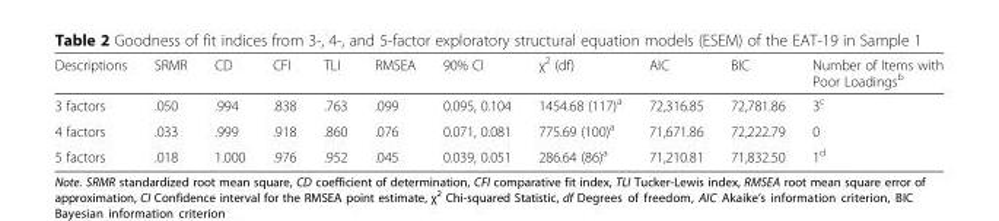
<table><thead><tr><td>Descriptions</td><td>SRMR</td><td>CD</td><td>CFI</td><td>TLI</td><td>RMSEA</td><td>90% CI</td><td>χ<sup>2</sup> (df)</td><td>AIC</td><td>BIC</td><td>Number of Items with Poor Loadings<sup>b</sup></td></tr></thead><tbody><tr><td>3 factors</td><td>.050</td><td>.994</td><td>.838</td><td>.763</td><td>.099</td><td>0.095, 0.104</td><td>1454.68 (117)<sup>a</sup></td><td>72,316.85</td><td>72,781.86</td><td>3<sup>c</sup></td></tr><tr><td>4 factors</td><td>.033</td><td>.999</td><td>.918</td><td>.860</td><td>.076</td><td>0.071, 0.081</td><td>775.69 (100)<sup>a</sup></td><td>71,671.86</td><td>72,222.79</td><td>0</td></tr><tr><td>5 factors</td><td>.018</td><td>1.000</td><td>.976</td><td>.952</td><td>.045</td><td>0.039, 0.051</td><td>286.64 (86)<sup>a</sup></td><td>71,210.81</td><td>71,832.50</td><td>1<sup>d</sup></td></tr></tbody></table>